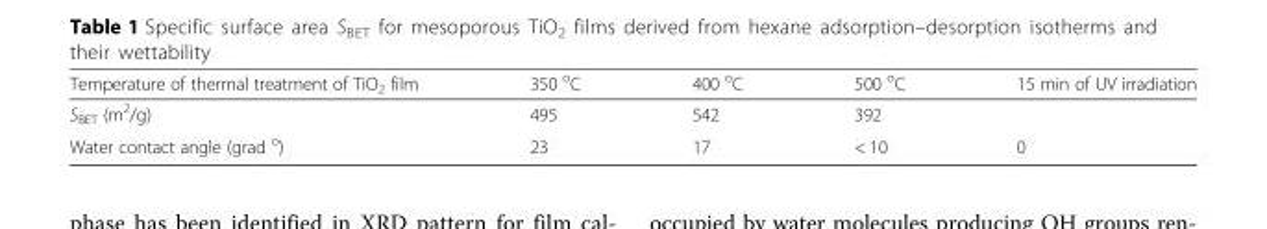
<table><thead><tr><td>Temperature of thermal treatment of TiO<sub>2</sub> film</td><td>350 <sup>о</sup>С</td><td>400 <sup>о</sup>С</td><td>500 <sup>о</sup>С</td><td>15 min of UV irradiation</td></tr></thead><tbody><tr><td>S<sub>BЕТ</sub> (m<sup>2</sup>/g)</td><td>495</td><td>542</td><td>392</td><td></td></tr><tr><td>Water contact angle (grad <sup>o</sup>)</td><td>23</td><td>17</td><td>&lt; 10</td><td>0</td></tr></tbody></table>